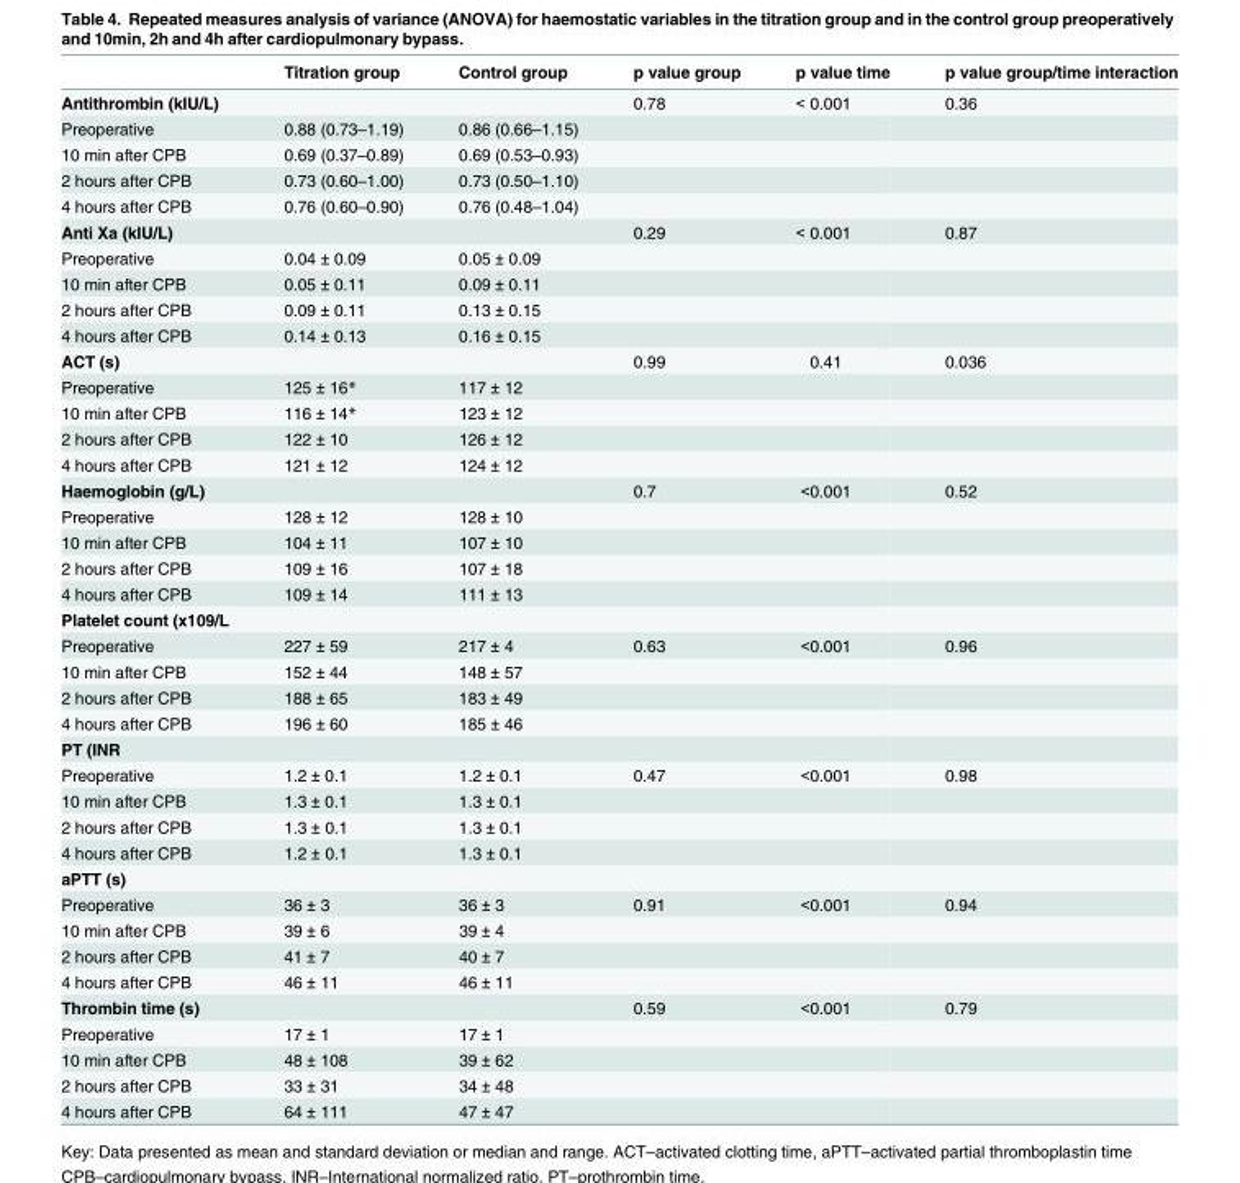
<table><thead><tr><td></td><td>Titration group</td><td>Control group</td><td>p value group</td><td>p value time</td><td>p value group/time interaction</td></tr></thead><tbody><tr><td>Antithrombin (kIU/L)</td><td></td><td></td><td>0.78</td><td>&lt; 0.001</td><td>0.36</td></tr><tr><td>Preoperative</td><td>0.88 (0.73–1.19)</td><td>0.86 (0.66–1.15)</td><td></td><td></td><td></td></tr><tr><td>10 min after CPB</td><td>0.69 (0.37–0.89)</td><td>0.69 (0.53–0.93)</td><td></td><td></td><td></td></tr><tr><td>2 hours after CPB</td><td>0.73 (0.60–1.00)</td><td>0.73 (0.50–1.10)</td><td></td><td></td><td></td></tr><tr><td>4 hours after CPB</td><td>0.76 (0.60–0.90)</td><td>0.76 (0.48–1.04)</td><td></td><td></td><td></td></tr><tr><td>Anti Xa (kIU/L)</td><td></td><td></td><td>0.29</td><td>&lt; 0.001</td><td>0.87</td></tr><tr><td>Preoperative</td><td>0.04 ± 0.09</td><td>0.05 ± 0.09</td><td></td><td></td><td></td></tr><tr><td>10 min after CPB</td><td>0.05 ± 0.11</td><td>0.09 ± 0.11</td><td></td><td></td><td></td></tr><tr><td>2 hours after CPB</td><td>0.09 ± 0.11</td><td>0.13 ± 0.15</td><td></td><td></td><td></td></tr><tr><td>4 hours after CPB</td><td>0.14 ± 0.13</td><td>0.16 ± 0.15</td><td></td><td></td><td></td></tr><tr><td>ACT (s)</td><td></td><td></td><td>0.99</td><td>0.41</td><td>0.036</td></tr><tr><td>Preoperative</td><td>125 ± 16*</td><td>117 ± 12</td><td></td><td></td><td></td></tr><tr><td>10 min after CPB</td><td>116 ± 14*</td><td>123 ± 12</td><td></td><td></td><td></td></tr><tr><td>2 hours after CPB</td><td>122 ± 10</td><td>126 ± 12</td><td></td><td></td><td></td></tr><tr><td>4 hours after CPB</td><td>121 ± 12</td><td>124 ± 12</td><td></td><td></td><td></td></tr><tr><td>Haemoglobin (g/L)</td><td></td><td></td><td>0.7</td><td>&lt;0.001</td><td>0.52</td></tr><tr><td>Preoperative</td><td>128 ± 12</td><td>128 ± 10</td><td></td><td></td><td></td></tr><tr><td>10 min after CPB</td><td>104 ± 11</td><td>107 ± 10</td><td></td><td></td><td></td></tr><tr><td>2 hours after CPB</td><td>109 ± 16</td><td>107 ± 18</td><td></td><td></td><td></td></tr><tr><td>4 hours after CPB</td><td>109 ± 14</td><td>111 ± 13</td><td></td><td></td><td></td></tr><tr><td colspan="6">Platelet count (x109/L</td></tr><tr><td>Preoperative</td><td>227 ± 59</td><td>217 ± 4</td><td>0.63</td><td>&lt;0.001</td><td>0.96</td></tr><tr><td>10 min after CPB</td><td>152 ± 44</td><td>148 ± 57</td><td></td><td></td><td></td></tr><tr><td>2 hours after CPB</td><td>188 ± 65</td><td>183 ± 49</td><td></td><td></td><td></td></tr><tr><td>4 hours after CPB</td><td>196 ± 60</td><td>185 ± 46</td><td></td><td></td><td></td></tr><tr><td colspan="6">PT (INR</td></tr><tr><td>Preoperative</td><td>1.2 ± 0.1</td><td>1.2 ± 0.1</td><td>0.47</td><td>&lt;0.001</td><td>0.98</td></tr><tr><td>10 min after CPB</td><td>1.3 ± 0.1</td><td>1.3 ± 0.1</td><td></td><td></td><td></td></tr><tr><td>2 hours after CPB</td><td>1.3 ± 0.1</td><td>1.3 ± 0.1</td><td></td><td></td><td></td></tr><tr><td>4 hours after CPB</td><td>1.2 ± 0.1</td><td>1.3 ± 0.1</td><td></td><td></td><td></td></tr><tr><td colspan="6">aPTT (s)</td></tr><tr><td>Preoperative</td><td>36 ± 3</td><td>36 ± 3</td><td>0.91</td><td>&lt;0.001</td><td>0.94</td></tr><tr><td>10 min after CPB</td><td>39 ± 6</td><td>39 ± 4</td><td></td><td></td><td></td></tr><tr><td>2 hours after CPB</td><td>41 ± 7</td><td>40 ± 7</td><td></td><td></td><td></td></tr><tr><td>4 hours after CPB</td><td>46 ± 11</td><td>46 ± 11</td><td></td><td></td><td></td></tr><tr><td>Thrombin time (s)</td><td></td><td></td><td>0.59</td><td>&lt;0.001</td><td>0.79</td></tr><tr><td>Preoperative</td><td>17 ± 1</td><td>17 ± 1</td><td></td><td></td><td></td></tr><tr><td>10 min after CPB</td><td>48 ± 108</td><td>39 ± 62</td><td></td><td></td><td></td></tr><tr><td>2 hours after CPB</td><td>33 ± 31</td><td>34 ± 48</td><td></td><td></td><td></td></tr><tr><td>4 hours after CPB</td><td>64 ± 111</td><td>47 ± 47</td><td></td><td></td><td></td></tr></tbody></table>